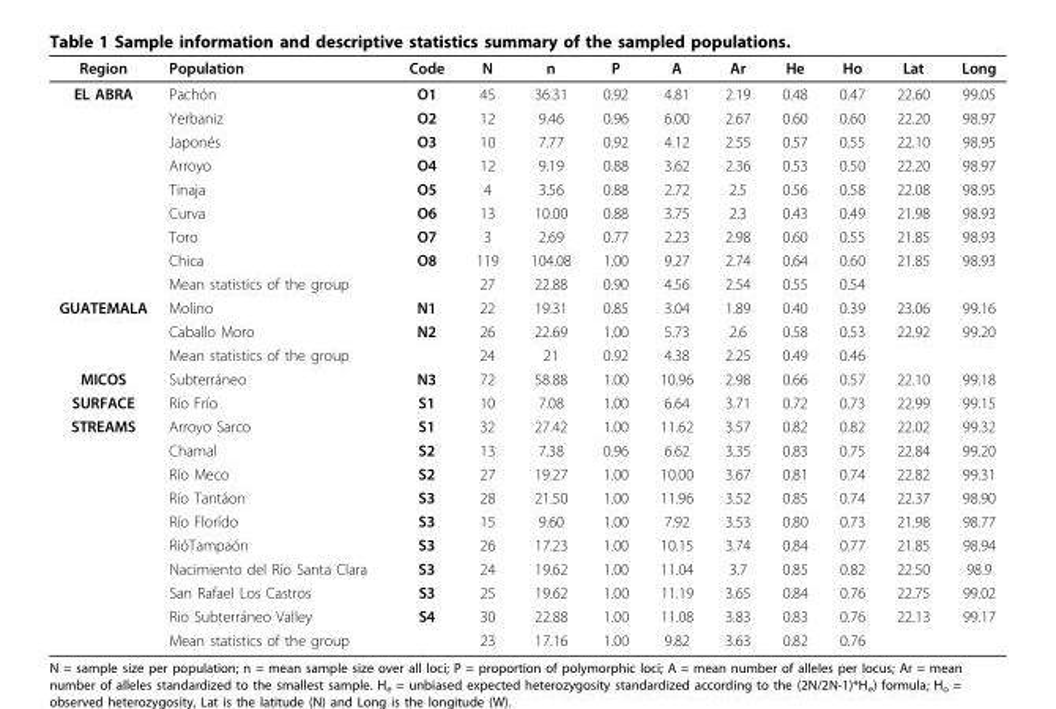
<table><thead><tr><td>Region</td><td>Population</td><td>Code</td><td>N</td><td>n</td><td>P</td><td>A</td><td>Ar</td><td>He</td><td>Ho</td><td>Lat</td><td>Long</td></tr></thead><tbody><tr><td rowspan="9">EL ABRA</td><td>Pachón</td><td>O1</td><td>45</td><td>36.31</td><td>0.92</td><td>4.81</td><td>2.19</td><td>0.48</td><td>0.47</td><td>22.60</td><td>99.05</td></tr><tr><td>Yerbaniz</td><td>O2</td><td>12</td><td>9.46</td><td>0.96</td><td>6.00</td><td>2.67</td><td>0.60</td><td>0.60</td><td>22.20</td><td>98.97</td></tr><tr><td>Japonés</td><td>O3</td><td>10</td><td>7.77</td><td>0.92</td><td>4.12</td><td>2.55</td><td>0.57</td><td>0.55</td><td>22.10</td><td>98.95</td></tr><tr><td>Arroyo</td><td>O4</td><td>12</td><td>9.19</td><td>0.88</td><td>3.62</td><td>2.36</td><td>0.53</td><td>0.50</td><td>22.20</td><td>98.97</td></tr><tr><td>Tinaja</td><td>O5</td><td>4</td><td>3.56</td><td>0.88</td><td>2.72</td><td>2.5</td><td>0.56</td><td>0.58</td><td>22.08</td><td>98.95</td></tr><tr><td>Curva</td><td>O6</td><td>13</td><td>10.00</td><td>0.88</td><td>3.75</td><td>2.3</td><td>0.43</td><td>0.49</td><td>21.98</td><td>98.93</td></tr><tr><td>Toro</td><td>O7</td><td>3</td><td>2.69</td><td>0.77</td><td>2.23</td><td>2.98</td><td>0.60</td><td>0.55</td><td>21.85</td><td>98.93</td></tr><tr><td>Chica</td><td>O8</td><td>119</td><td>104.08</td><td>1.00</td><td>9.27</td><td>2.74</td><td>0.64</td><td>0.60</td><td>21.85</td><td>98.93</td></tr><tr><td colspan="2">Mean statistics of the group</td><td>27</td><td>22.88</td><td>0.90</td><td>4.56</td><td>2.54</td><td>0.55</td><td>0.54</td><td></td><td></td></tr><tr><td rowspan="3">GUATEMALA</td><td>Molino</td><td>N1</td><td>22</td><td>19.31</td><td>0.85</td><td>3.04</td><td>1.89</td><td>0.40</td><td>0.39</td><td>23.06</td><td>99.16</td></tr><tr><td>Caballo Moro</td><td>N2</td><td>26</td><td>22.69</td><td>1.00</td><td>5.73</td><td>2.6</td><td>0.58</td><td>0.53</td><td>22.92</td><td>99.20</td></tr><tr><td colspan="2">Mean statistics of the group</td><td>24</td><td>21</td><td>0.92</td><td>4.38</td><td>2.25</td><td>0.49</td><td>0.46</td><td></td><td></td></tr><tr><td>MICOS</td><td>Subterráneo</td><td>N3</td><td>72</td><td>58.88</td><td>1.00</td><td>10.96</td><td>2.98</td><td>0.66</td><td>0.57</td><td>22.10</td><td>99.18</td></tr><tr><td>SURFACE</td><td>Río Frío</td><td>S1</td><td>10</td><td>7.08</td><td>1.00</td><td>6.64</td><td>3.71</td><td>0.72</td><td>0.73</td><td>22.99</td><td>99.15</td></tr><tr><td rowspan="10">STREAMS</td><td>Arroyo Sarco</td><td>S1</td><td>32</td><td>27.42</td><td>1.00</td><td>11.62</td><td>3.57</td><td>0.82</td><td>0.82</td><td>22.02</td><td>99.32</td></tr><tr><td>Chamal</td><td>S2</td><td>13</td><td>7.38</td><td>0.96</td><td>6.62</td><td>3.35</td><td>0.83</td><td>0.75</td><td>22.84</td><td>99.20</td></tr><tr><td>Río Meco</td><td>S2</td><td>27</td><td>19.27</td><td>1.00</td><td>10.00</td><td>3.67</td><td>0.81</td><td>0.74</td><td>22.82</td><td>99.31</td></tr><tr><td>Río Tantáon</td><td>S3</td><td>28</td><td>21.50</td><td>1.00</td><td>11.96</td><td>3.52</td><td>0.85</td><td>0.74</td><td>22.37</td><td>98.90</td></tr><tr><td>Río Florído</td><td>S3</td><td>15</td><td>9.60</td><td>1.00</td><td>7.92</td><td>3.53</td><td>0.80</td><td>0.73</td><td>21.98</td><td>98.77</td></tr><tr><td>RióTampaón</td><td>S3</td><td>26</td><td>17.23</td><td>1.00</td><td>10.15</td><td>3.74</td><td>0.84</td><td>0.77</td><td>21.85</td><td>98.94</td></tr><tr><td>Nacimiento del Río Santa Clara</td><td>S3</td><td>24</td><td>19.62</td><td>1.00</td><td>11.04</td><td>3.7</td><td>0.85</td><td>0.82</td><td>22.50</td><td>98.9</td></tr><tr><td>San Rafael Los Castros</td><td>S3</td><td>25</td><td>19.62</td><td>1.00</td><td>11.19</td><td>3.65</td><td>0.84</td><td>0.76</td><td>22.75</td><td>99.02</td></tr><tr><td>Rio Subterráneo Valley</td><td>S4</td><td>30</td><td>22.88</td><td>1.00</td><td>11.08</td><td>3.83</td><td>0.83</td><td>0.76</td><td>22.13</td><td>99.17</td></tr><tr><td colspan="2">Mean statistics of the group</td><td>23</td><td>17.16</td><td>1.00</td><td>9.82</td><td>3.63</td><td>0.82</td><td>0.76</td><td></td><td></td></tr></tbody></table>